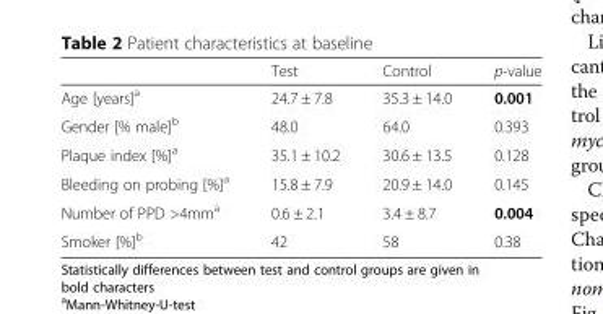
<table><thead><tr><td></td><td>Test</td><td>Control</td><td>p-value</td></tr></thead><tbody><tr><td>Age [years]<sup>a</sup></td><td>24.7 ± 7.8</td><td>35.3 ± 14.0</td><td>0.001</td></tr><tr><td>Gender [% male]<sup>b</sup></td><td>48.0</td><td>64.0</td><td>0.393</td></tr><tr><td>Plaque index [%]<sup>a</sup></td><td>35.1 ± 10.2</td><td>30.6 ± 13.5</td><td>0.128</td></tr><tr><td>Bleeding on probing [%]<sup>a</sup></td><td>15.8 ± 7.9</td><td>20.9 ± 14.0</td><td>0.145</td></tr><tr><td>Number of PPD &gt;4mm<sup>a</sup></td><td>0.6 ± 2.1</td><td>3.4 ± 8.7</td><td>0.004</td></tr><tr><td>Smoker [%]<sup>b</sup></td><td>42</td><td>58</td><td>0.38</td></tr></tbody></table>